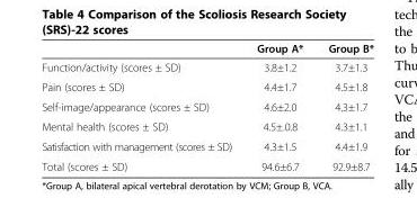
<table><thead><tr><td></td><td>Group A*</td><td>Group B*</td></tr></thead><tbody><tr><td>Function/activity (scores ± SD)</td><td>3.8±1.2</td><td>3.7±1.3</td></tr><tr><td>Pain (scores ± SD)</td><td>4.4±1.7</td><td>4.5±1.8</td></tr><tr><td>Self-image/appearance (scores ± SD)</td><td>4.6±2.0</td><td>4.3±1.7</td></tr><tr><td>Mental health (scores ± SD)</td><td>4.5±.0.8</td><td>4.3±1.1</td></tr><tr><td>Satisfaction with management (scores ± SD)</td><td>4.3±1.5</td><td>4.4±1.9</td></tr><tr><td>Total (scores ± SD)</td><td>94.6±6.7</td><td>92.9±8.7</td></tr></tbody></table>